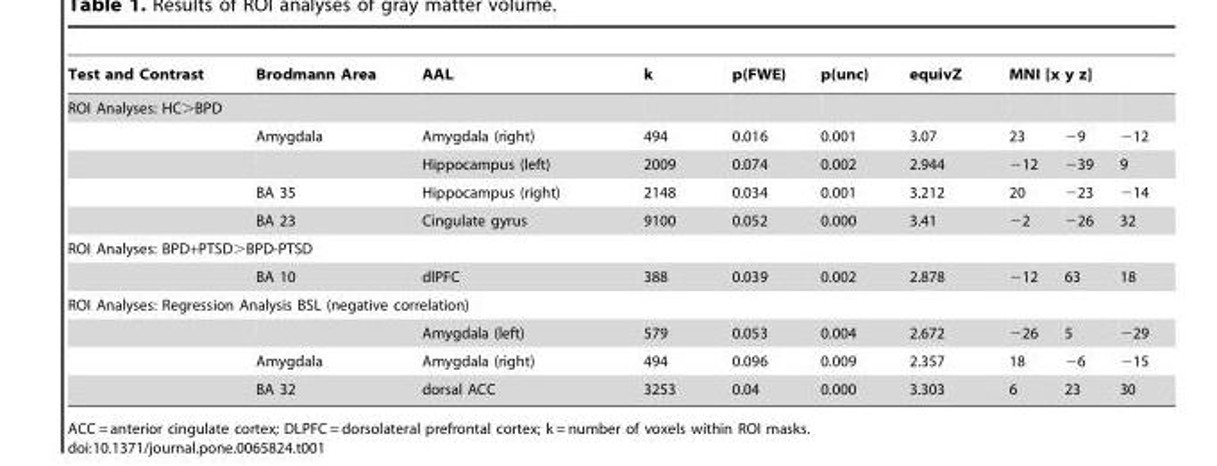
<table><thead><tr><td>Test and Contrast</td><td>Brodmann Area</td><td>AAL</td><td rowspan="2">k</td><td rowspan="2">p(FWE)</td><td rowspan="2">p(unc)</td><td rowspan="2">equivZ</td><td colspan="3">MNI [x y z]</td></tr><tr><td colspan="3">ROI Analyses: HC&gt;BPD</td><td></td><td></td><td></td></tr></thead><tbody><tr><td></td><td>Amygdala</td><td>Amygdala (right)</td><td>494</td><td>0.016</td><td>0.001</td><td>3.07</td><td>23</td><td>−9</td><td>−12</td></tr><tr><td></td><td></td><td>Hippocampus (left)</td><td>2009</td><td>0.074</td><td>0.002</td><td>2.944</td><td>−12</td><td>−39</td><td>9</td></tr><tr><td></td><td>BA 35</td><td>Hippocampus (right)</td><td>2148</td><td>0.034</td><td>0.001</td><td>3.212</td><td>20</td><td>−23</td><td>−14</td></tr><tr><td></td><td>BA 23</td><td>Cingulate gyrus</td><td>9100</td><td>0.052</td><td>0.000</td><td>3.41</td><td>−2</td><td>−26</td><td>32</td></tr><tr><td colspan="10">ROI Analyses: BPD+PTSD&gt;BPD-PTSD</td></tr><tr><td></td><td>BA 10</td><td>dlPFC</td><td>388</td><td>0.039</td><td>0.002</td><td>2.878</td><td>−12</td><td>63</td><td>18</td></tr><tr><td colspan="10">ROI Analyses: Regression Analysis BSL (negative correlation)</td></tr><tr><td></td><td></td><td>Amygdala (left)</td><td>579</td><td>0.053</td><td>0.004</td><td>2.672</td><td>−26</td><td>5</td><td>−29</td></tr><tr><td></td><td>Amygdala</td><td>Amygdala (right)</td><td>494</td><td>0.096</td><td>0.009</td><td>2.357</td><td>18</td><td>−6</td><td>−15</td></tr><tr><td></td><td>BA 32</td><td>dorsal ACC</td><td>3253</td><td>0.04</td><td>0.000</td><td>3.303</td><td>6</td><td>23</td><td>30</td></tr></tbody></table>